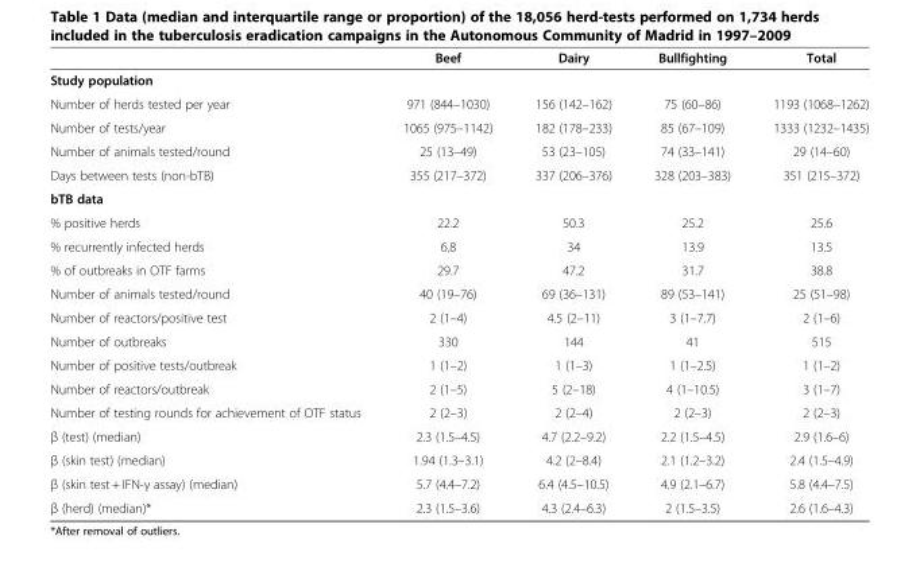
<table><thead><tr><td></td><td>Beef</td><td>Dairy</td><td>Bullfighting</td><td>Total</td></tr></thead><tbody><tr><td colspan="5">Study population</td></tr><tr><td>Number of herds tested per year</td><td>971 (844–1030)</td><td>156 (142–162)</td><td>75 (60–86)</td><td>1193 (1068–1262)</td></tr><tr><td>Number of tests/year</td><td>1065 (975–1142)</td><td>182 (178–233)</td><td>85 (67–109)</td><td>1333 (1232–1435)</td></tr><tr><td>Number of animals tested/round</td><td>25 (13–49)</td><td>53 (23–105)</td><td>74 (33–141)</td><td>29 (14–60)</td></tr><tr><td>Days between tests (non-bTB)</td><td>355 (217–372)</td><td>337 (206–376)</td><td>328 (203–383)</td><td>351 (215–372)</td></tr><tr><td colspan="5">bTB data</td></tr><tr><td>% positive herds</td><td>22.2</td><td>50.3</td><td>25.2</td><td>25.6</td></tr><tr><td>% recurrently infected herds</td><td>6.8</td><td>34</td><td>13.9</td><td>13.5</td></tr><tr><td>% of outbreaks in OTF farms</td><td>29.7</td><td>47.2</td><td>31.7</td><td>38.8</td></tr><tr><td>Number of animals tested/round</td><td>40 (19–76)</td><td>69 (36–131)</td><td>89 (53–141)</td><td>25 (51–98)</td></tr><tr><td>Number of reactors/positive test</td><td>2 (1–4)</td><td>4.5 (2–11)</td><td>3 (1–7.7)</td><td>2 (1–6)</td></tr><tr><td>Number of outbreaks</td><td>330</td><td>144</td><td>41</td><td>515</td></tr><tr><td>Number of positive tests/outbreak</td><td>1 (1–2)</td><td>1 (1–3)</td><td>1 (1–2.5)</td><td>1 (1–2)</td></tr><tr><td>Number of reactors/outbreak</td><td>2 (1–5)</td><td>5 (2–18)</td><td>4 (1–10.5)</td><td>3 (1–7)</td></tr><tr><td>Number of testing rounds for achievement of OTF status</td><td>2 (2–3)</td><td>2 (2–4)</td><td>2 (2–3)</td><td>2 (2–3)</td></tr><tr><td>β (test) (median)</td><td>2.3 (1.5–4.5)</td><td>4.7 (2.2–9.2)</td><td>2.2 (1.5–4.5)</td><td>2.9 (1.6–6)</td></tr><tr><td>β (skin test) (median)</td><td>1.94 (1.3–3.1)</td><td>4.2 (2–8.4)</td><td>2.1 (1.2–3.2)</td><td>2.4 (1.5–4.9)</td></tr><tr><td>β (skin test + IFN-γ assay) (median)</td><td>5.7 (4.4–7.2)</td><td>6.4 (4.5–10.5)</td><td>4.9 (2.1–6.7)</td><td>5.8 (4.4–7.5)</td></tr><tr><td>β (herd) (median)*</td><td>2.3 (1.5–3.6)</td><td>4.3 (2.4–6.3)</td><td>2 (1.5–3.5)</td><td>2.6 (1.6–4.3)</td></tr></tbody></table>